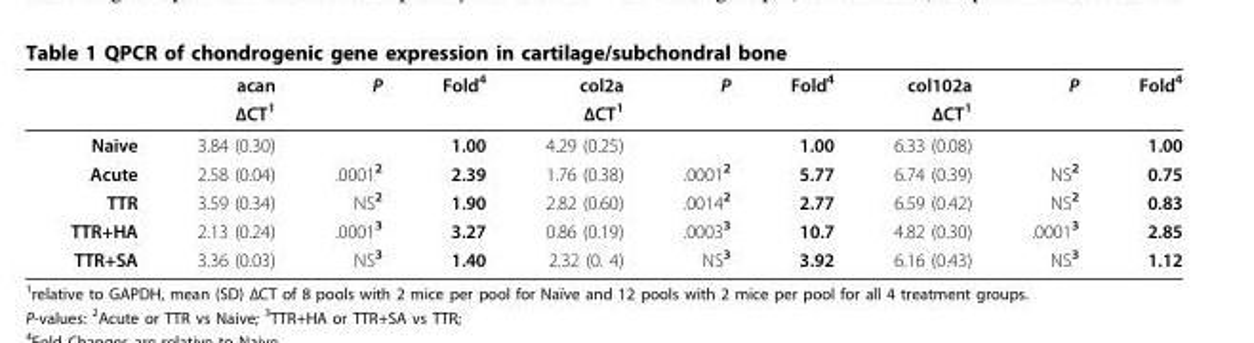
<table><thead><tr><td rowspan="2"></td><td rowspan="2">acan ΔCT<sup>1</sup></td><td rowspan="2">P</td><td rowspan="2">Fold<sup>4</sup></td><td rowspan="2">col2a ΔCT<sup>1</sup></td><td rowspan="2">P</td><td rowspan="2">Fold<sup>4</sup></td><td rowspan="2">col102a ΔCT<sup>1</sup></td><td rowspan="2">P</td><td rowspan="2">Fold<sup>4</sup></td></tr><tr></tr></thead><tbody><tr><td>Naive</td><td>3.84 (0.30)</td><td></td><td>1.00</td><td>4.29 (0.25)</td><td></td><td>1.00</td><td>6.33 (0.08)</td><td></td><td>1.00</td></tr><tr><td>Acute</td><td>2.58 (0.04)</td><td>.0001<sup>2</sup></td><td>2.39</td><td>1.76 (0.38)</td><td>.0001<sup>2</sup></td><td>5.77</td><td>6.74 (0.39)</td><td>NS<sup>2</sup></td><td>0.75</td></tr><tr><td>TTR</td><td>3.59 (0.34)</td><td>NS<sup>2</sup></td><td>1.90</td><td>2.82 (0.60)</td><td>.0014<sup>2</sup></td><td>2.77</td><td>6.59 (0.42)</td><td>NS<sup>2</sup></td><td>0.83</td></tr><tr><td>TTR+HA</td><td>2.13 (0.24)</td><td>.0001<sup>3</sup></td><td>3.27</td><td>0.86 (0.19)</td><td>.0003<sup>3</sup></td><td>10.7</td><td>4.82 (0.30)</td><td>.0001<sup>3</sup></td><td>2.85</td></tr><tr><td>TTR+SA</td><td>3.36 (0.03)</td><td>NS<sup>3</sup></td><td>1.40</td><td>2.32 (0. 4)</td><td>NS<sup>3</sup></td><td>3.92</td><td>6.16 (0.43)</td><td>NS<sup>3</sup></td><td>1.12</td></tr></tbody></table>